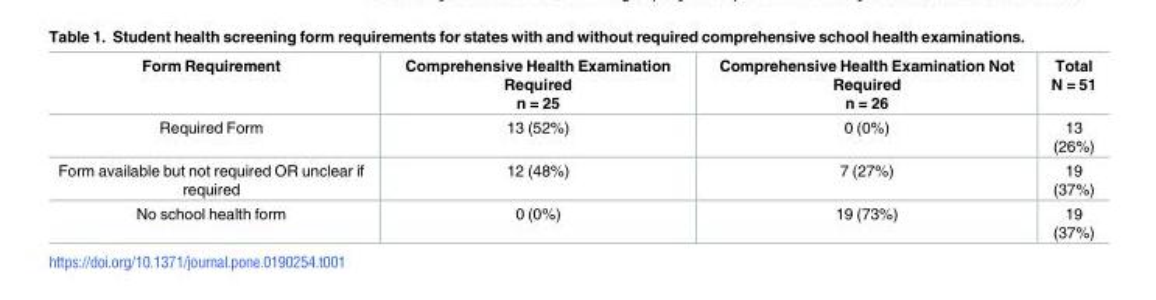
<table><thead><tr><td>Form Requirement</td><td>Comprehensive Health Examination Required n = 25</td><td>Comprehensive Health Examination Not Required n = 26</td><td>Total N = 51</td></tr></thead><tbody><tr><td>Required Form</td><td>13 (52%)</td><td>0 (0%)</td><td>13 (26%)</td></tr><tr><td>Form available but not required OR unclear if required</td><td>12 (48%)</td><td>7 (27%)</td><td>19 (37%)</td></tr><tr><td>No school health form</td><td>0 (0%)</td><td>19 (73%)</td><td>19 (37%)</td></tr></tbody></table>